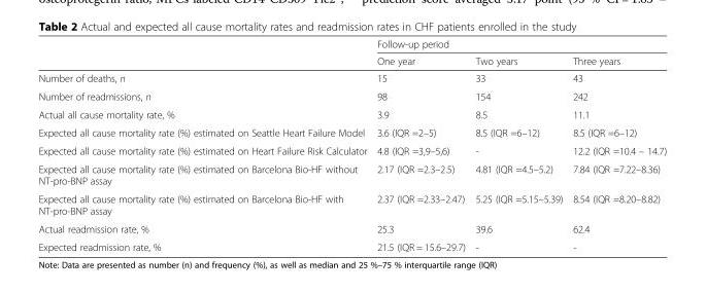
<table><thead><tr><td rowspan="2"></td><td colspan="3">Follow-up period</td></tr><tr><td>One year</td><td>Two years</td><td>Three years</td></tr></thead><tbody><tr><td>Number of deaths, n</td><td>15</td><td>33</td><td>43</td></tr><tr><td>Number of readmissions, n</td><td>98</td><td>154</td><td>242</td></tr><tr><td>Actual all cause mortality rate, %</td><td>3.9</td><td>8.5</td><td>11.1</td></tr><tr><td>Expected all cause mortality rate (%) estimated on Seattle Heart Failure Model</td><td>3.6 (IQR =2–5)</td><td>8.5 (IQR =6–12)</td><td>8.5 (IQR =6–12)</td></tr><tr><td>Expected all cause mortality rate (%) estimated on Heart Failure Risk Calculator</td><td>4.8 (IQR =3,9–5,6)</td><td>-</td><td>12.2 (IQR =10.4 – 14.7)</td></tr><tr><td>Expected all cause mortality rate (%) estimated on Barcelona Bio-HF without NT-pro-BNP assay</td><td>2.17 (IQR =2.3–2.5)</td><td>4.81 (IQR =4.5–5.2)</td><td>7.84 (IQR =7.22–8.36)</td></tr><tr><td>Expected all cause mortality rate (%) estimated on Barcelona Bio-HF with NT-pro-BNP assay</td><td>2.37 (IQR =2.33–2.47)</td><td>5.25 (IQR =5.15–5.39)</td><td>8.54 (IQR =8.20–8.82)</td></tr><tr><td>Actual readmission rate, %</td><td>25.3</td><td>39.6</td><td>62.4</td></tr><tr><td>Expected readmission rate, %</td><td>21.5 (IQR = 15.6–29.7)</td><td>-</td><td>-</td></tr></tbody></table>